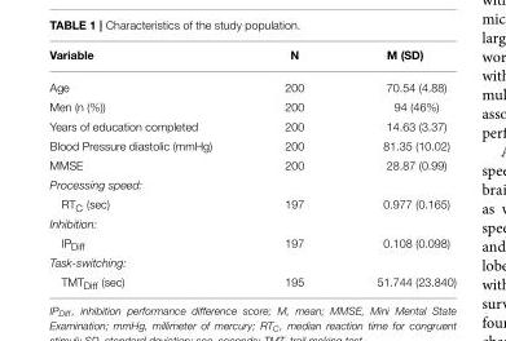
<table><thead><tr><td>Variable</td><td>N</td><td>M (SD)</td></tr></thead><tbody><tr><td>Age</td><td>200</td><td>70.54 (4.88)</td></tr><tr><td>Men (n (%))</td><td>200</td><td>94 (46%)</td></tr><tr><td>Years of education completed</td><td>200</td><td>14.63 (3.37)</td></tr><tr><td>Blood Pressure diastolic (mmHg)</td><td>200</td><td>81.35 (10.02)</td></tr><tr><td>MMSE</td><td>200</td><td>28.87 (0.99)</td></tr><tr><td colspan="3">Processing speed:</td></tr><tr><td>RT<sub>C</sub> (sec)</td><td>197</td><td>0.977 (0.165)</td></tr><tr><td colspan="3">Inhibition:</td></tr><tr><td>IP<sub>Diff</sub></td><td>197</td><td>0.108 (0.098)</td></tr><tr><td colspan="3">Task-switching:</td></tr><tr><td>TMT<sub>Diff</sub> (sec)</td><td>195</td><td>51.744 (23.840)</td></tr></tbody></table>